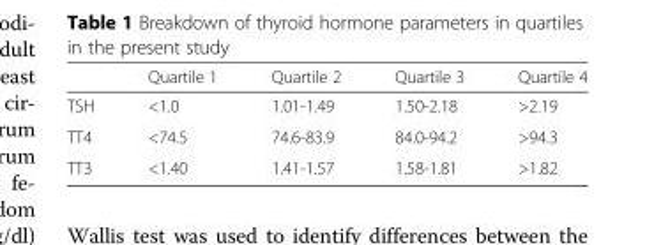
<table><thead><tr><td></td><td>Quartile 1</td><td>Quartile 2</td><td>Quartile 3</td><td>Quartile 4</td></tr></thead><tbody><tr><td>TSH</td><td>&lt;1.0</td><td>1.01-1.49</td><td>1.50-2.18</td><td>&gt;2.19</td></tr><tr><td>TT4</td><td>&lt;74.5</td><td>74.6-83.9</td><td>84.0-94.2</td><td>&gt;94.3</td></tr><tr><td>TT3</td><td>&lt;1.40</td><td>1.41-1.57</td><td>1.58-1.81</td><td>&gt;1.82</td></tr></tbody></table>